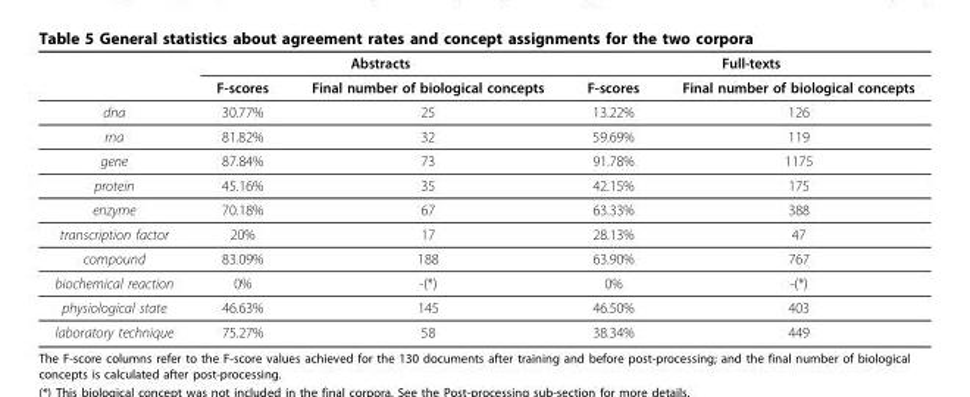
<table><thead><tr><td rowspan="2"></td><td colspan="2">Abstracts</td><td colspan="2">Full-texts</td></tr><tr><td>F-scores</td><td>Final number of biological concepts</td><td>F-scores</td><td>Final number of biological concepts</td></tr></thead><tbody><tr><td>dna</td><td>30.77%</td><td>25</td><td>13.22%</td><td>126</td></tr><tr><td>rna</td><td>81.82%</td><td>32</td><td>59.69%</td><td>119</td></tr><tr><td>gene</td><td>87.84%</td><td>73</td><td>91.78%</td><td>1175</td></tr><tr><td>protein</td><td>45.16%</td><td>35</td><td>42.15%</td><td>175</td></tr><tr><td>enzyme</td><td>70.18%</td><td>67</td><td>63.33%</td><td>388</td></tr><tr><td>transcription factor</td><td>20%</td><td>17</td><td>28.13%</td><td>47</td></tr><tr><td>compound</td><td>83.09%</td><td>188</td><td>63.90%</td><td>767</td></tr><tr><td>biochemical reaction</td><td>0%</td><td>-(*)</td><td>0%</td><td>-(*)</td></tr><tr><td>physiological state</td><td>46.63%</td><td>145</td><td>46.50%</td><td>403</td></tr><tr><td>laboratory technique</td><td>75.27%</td><td>58</td><td>38.34%</td><td>449</td></tr></tbody></table>